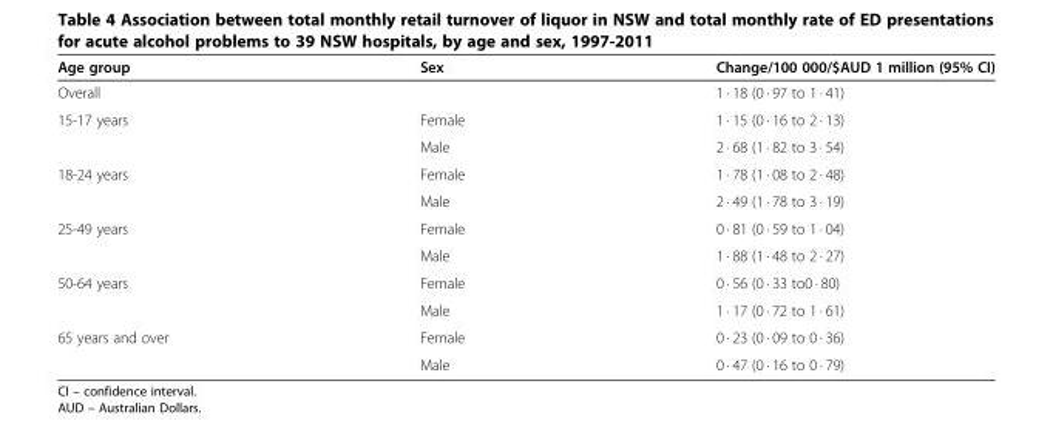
<table><thead><tr><td>Age group</td><td>Sex</td><td>Change/100 000/$AUD 1 million (95% CI)</td></tr></thead><tbody><tr><td>Overall</td><td></td><td>1 · 18 (0 · 97 to 1 · 41)</td></tr><tr><td rowspan="2">15-17 years</td><td>Female</td><td>1 · 15 (0 · 16 to 2 · 13)</td></tr><tr><td>Male</td><td>2 · 68 (1 · 82 to 3 · 54)</td></tr><tr><td rowspan="2">18-24 years</td><td>Female</td><td>1 · 78 (1 · 08 to 2 · 48)</td></tr><tr><td>Male</td><td>2 · 49 (1 · 78 to 3 · 19)</td></tr><tr><td rowspan="2">25-49 years</td><td>Female</td><td>0 · 81 (0 · 59 to 1 · 04)</td></tr><tr><td>Male</td><td>1 · 88 (1 · 48 to 2 · 27)</td></tr><tr><td rowspan="2">50-64 years</td><td>Female</td><td>0 · 56 (0 · 33 to0 · 80)</td></tr><tr><td>Male</td><td>1 · 17 (0 · 72 to 1 · 61)</td></tr><tr><td rowspan="2">65 years and over</td><td>Female</td><td>0 · 23 (0 · 09 to 0 · 36)</td></tr><tr><td>Male</td><td>0 · 47 (0 · 16 to 0 · 79)</td></tr></tbody></table>